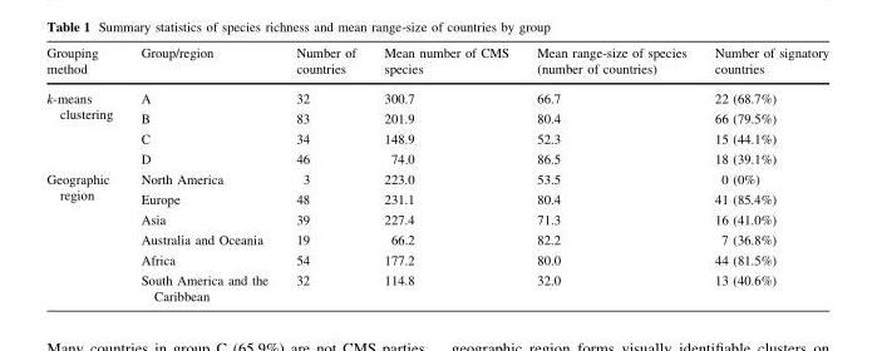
<table><thead><tr><td>Grouping method</td><td>Group/region</td><td>Number of countries</td><td>Mean number of CMS species</td><td>Mean range-size of species (number of countries)</td><td>Number of signatory countries</td></tr></thead><tbody><tr><td rowspan="4">k-means clustering</td><td>A</td><td>32</td><td>300.7</td><td>66.7</td><td>22 (68.7%)</td></tr><tr><td>B</td><td>83</td><td>201.9</td><td>80.4</td><td>66 (79.5%)</td></tr><tr><td>C</td><td>34</td><td>148.9</td><td>52.3</td><td>15 (44.1%)</td></tr><tr><td>D</td><td>46</td><td>74.0</td><td>86.5</td><td>18 (39.1%)</td></tr><tr><td rowspan="6">Geographic region</td><td>North America</td><td>3</td><td>223.0</td><td>53.5</td><td>0 (0%)</td></tr><tr><td>Europe</td><td>48</td><td>231.1</td><td>80.4</td><td>41 (85.4%)</td></tr><tr><td>Asia</td><td>39</td><td>227.4</td><td>71.3</td><td>16 (41.0%)</td></tr><tr><td>Australia and Oceania</td><td>19</td><td>66.2</td><td>82.2</td><td>7 (36.8%)</td></tr><tr><td>Africa</td><td>54</td><td>177.2</td><td>80.0</td><td>44 (81.5%)</td></tr><tr><td>South America and the Caribbean</td><td>32</td><td>114.8</td><td>32.0</td><td>13 (40.6%)</td></tr></tbody></table>